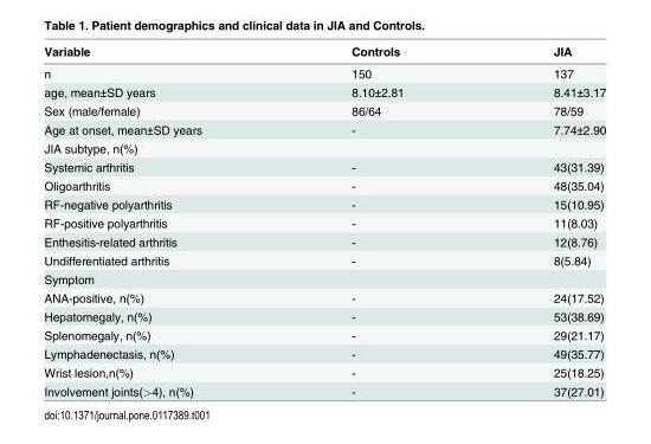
<table><thead><tr><td>Variable</td><td>Controls</td><td>JIA</td></tr></thead><tbody><tr><td>n</td><td>150</td><td>137</td></tr><tr><td>age, mean±SD years</td><td>8.10±2.81</td><td>8.41±3.17</td></tr><tr><td>Sex (male/female)</td><td>86/64</td><td>78/59</td></tr><tr><td>Age at onset, mean±SD years</td><td>-</td><td>7.74±2.90</td></tr><tr><td colspan="3">JIA subtype, n(%)</td></tr><tr><td>Systemic arthritis</td><td>-</td><td>43(31.39)</td></tr><tr><td>Oligoarthritis</td><td>-</td><td>48(35.04)</td></tr><tr><td>RF-negative polyarthritis</td><td>-</td><td>15(10.95)</td></tr><tr><td>RF-positive polyarthritis</td><td>-</td><td>11(8.03)</td></tr><tr><td>Enthesitis-related arthritis</td><td>-</td><td>12(8.76)</td></tr><tr><td>Undifferentiated arthritis</td><td>-</td><td>8(5.84)</td></tr><tr><td colspan="3">Symptom</td></tr><tr><td>ANA-positive, n(%)</td><td>-</td><td>24(17.52)</td></tr><tr><td>Hepatomegaly, n(%)</td><td>-</td><td>53(38.69)</td></tr><tr><td>Splenomegaly, n(%)</td><td>-</td><td>29(21.17)</td></tr><tr><td>Lymphadenectasis, n(%)</td><td>-</td><td>49(35.77)</td></tr><tr><td>Wrist lesion,n(%)</td><td>-</td><td>25(18.25)</td></tr><tr><td>Involvement joints(&gt;4), n(%)</td><td>-</td><td>37(27.01)</td></tr></tbody></table>